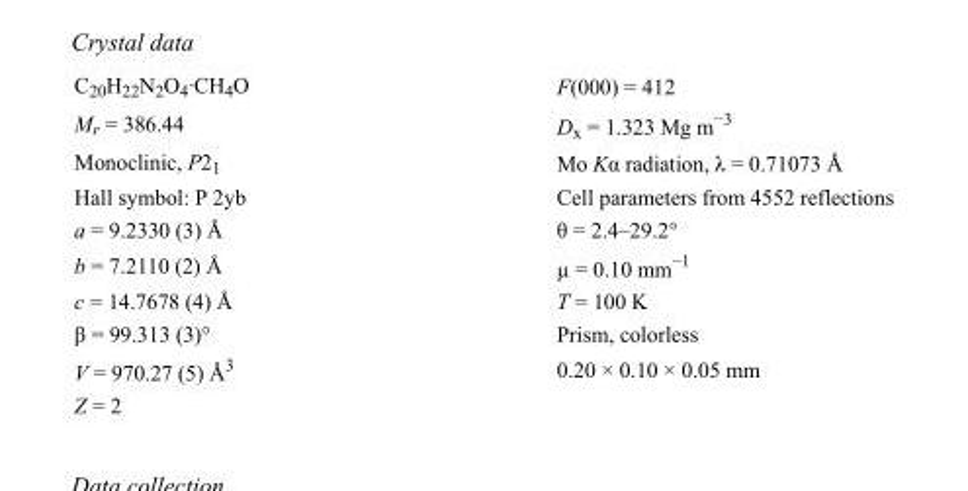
<table><tbody><tr><td>C<sub>20</sub>H<sub>22</sub>N<sub>2</sub>O<sub>4</sub>·CH<sub>4</sub>O</td><td>F(000) = 412</td></tr><tr><td>M<sub>r</sub> = 386.44</td><td>D<sub>x</sub> = 1.323 Mg m<sup>−3</sup></td></tr><tr><td>Monoclinic, P2<sub>1</sub></td><td>Mo Kα radiation, λ = 0.71073 Å</td></tr><tr><td>Hall symbol: P 2yb</td><td>Cell parameters from 4552 reflections</td></tr><tr><td>a = 9.2330 (3) Å</td><td>θ = 2.4–29.2°</td></tr><tr><td>b = 7.2110 (2) Å</td><td>µ = 0.10 mm<sup>−1</sup></td></tr><tr><td>c = 14.7678 (4) Å</td><td>T = 100 K</td></tr><tr><td>β = 99.313 (3)°</td><td>Prism, colorless</td></tr><tr><td>V = 970.27 (5) Å<sup>3</sup></td><td>0.20 × 0.10 × 0.05 mm</td></tr><tr><td>Z = 2</td><td></td></tr></tbody></table>